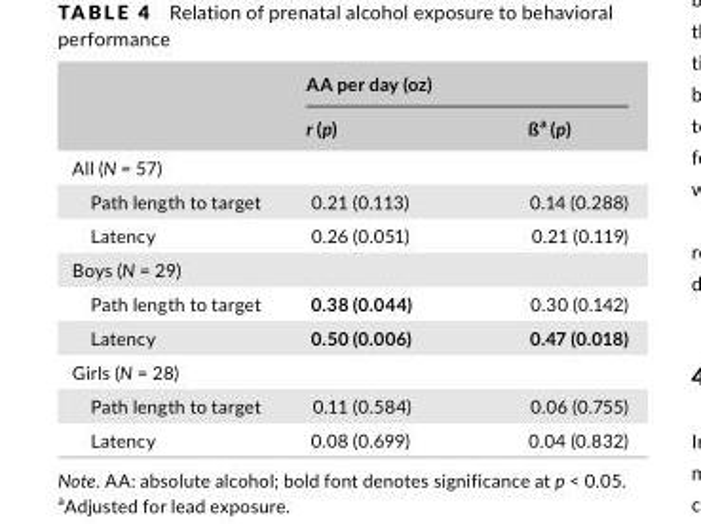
<table><thead><tr><td rowspan="2"></td><td colspan="2">AA per day (oz)</td></tr><tr><td>r (p)</td><td>ß<sup>a</sup> (p)</td></tr></thead><tbody><tr><td colspan="3">All (N = 57)</td></tr><tr><td>Path length to target</td><td>0.21 (0.113)</td><td>0.14 (0.288)</td></tr><tr><td>Latency</td><td>0.26 (0.051)</td><td>0.21 (0.119)</td></tr><tr><td colspan="3">Boys (N = 29)</td></tr><tr><td>Path length to target</td><td>0.38 (0.044)</td><td>0.30 (0.142)</td></tr><tr><td>Latency</td><td>0.50 (0.006)</td><td>0.47 (0.018)</td></tr><tr><td colspan="3">Girls (N = 28)</td></tr><tr><td>Path length to target</td><td>0.11 (0.584)</td><td>0.06 (0.755)</td></tr><tr><td>Latency</td><td>0.08 (0.699)</td><td>0.04 (0.832)</td></tr></tbody></table>